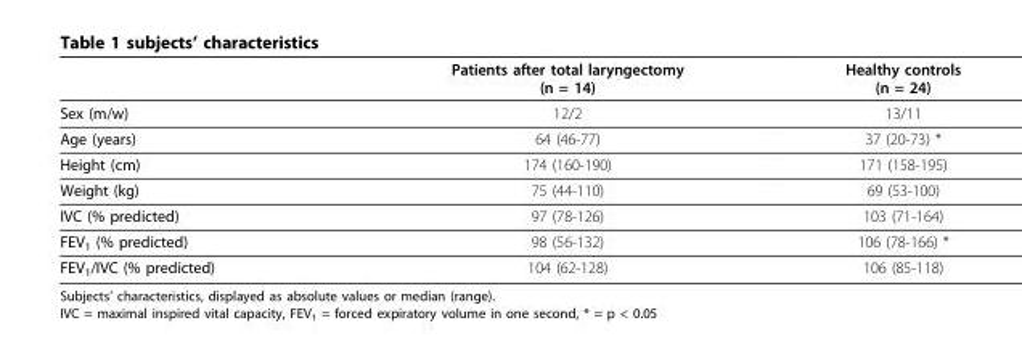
<table><thead><tr><td></td><td>Patients after total laryngectomy (n = 14)</td><td>Healthy controls (n = 24)</td></tr></thead><tbody><tr><td>Sex (m/w)</td><td>12/2</td><td>13/11</td></tr><tr><td>Age (years)</td><td>64 (46-77)</td><td>37 (20-73) *</td></tr><tr><td>Height (cm)</td><td>174 (160-190)</td><td>171 (158-195)</td></tr><tr><td>Weight (kg)</td><td>75 (44-110)</td><td>69 (53-100)</td></tr><tr><td>IVC (% predicted)</td><td>97 (78-126)</td><td>103 (71-164)</td></tr><tr><td>FEV<sub>1</sub> (% predicted)</td><td>98 (56-132)</td><td>106 (78-166) *</td></tr><tr><td>FEV<sub>1</sub>/IVC (% predicted)</td><td>104 (62-128)</td><td>106 (85-118)</td></tr></tbody></table>